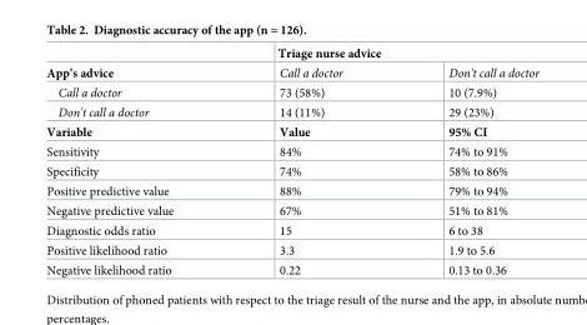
<table><thead><tr><td rowspan="2">App’s advice</td><td colspan="2">Triage nurse advice</td></tr><tr><td>Call a doctor</td><td>Don&#x27;t call a doctor</td></tr></thead><tbody><tr><td>Call a doctor</td><td>73 (58%)</td><td>10 (7.9%)</td></tr><tr><td>Don&#x27;t call a doctor</td><td>14 (11%)</td><td>29 (23%)</td></tr><tr><td>Variable</td><td>Value</td><td>95% CI</td></tr><tr><td>Sensitivity</td><td>84%</td><td>74% to 91%</td></tr><tr><td>Specificity</td><td>74%</td><td>58% to 86%</td></tr><tr><td>Positive predictive value</td><td>88%</td><td>79% to 94%</td></tr><tr><td>Negative predictive value</td><td>67%</td><td>51% to 81%</td></tr><tr><td>Diagnostic odds ratio</td><td>15</td><td>6 to 38</td></tr><tr><td>Positive likelihood ratio</td><td>3.3</td><td>1.9 to 5.6</td></tr><tr><td>Negative likelihood ratio</td><td>0.22</td><td>0.13 to 0.36</td></tr></tbody></table>